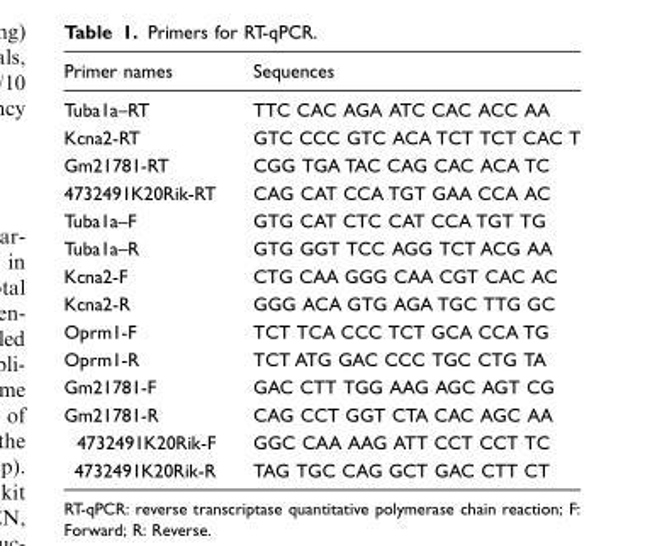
<table><thead><tr><td>Primer names</td><td>Sequences</td></tr></thead><tbody><tr><td>Tuba1a–RT</td><td>TTC CAC AGA ATC CAC ACC AA</td></tr><tr><td>Kcna2-RT</td><td>GTC CCC GTC ACA TCT TCT CAC T</td></tr><tr><td>Gm21781-RT</td><td>CGG TGA TAC CAG CAC ACA TC</td></tr><tr><td>4732491K20Rik-RT</td><td>CAG CAT CCA TGT GAA CCA AC</td></tr><tr><td>Tuba1a–F</td><td>GTG CAT CTC CAT CCA TGT TG</td></tr><tr><td>Tuba1a–R</td><td>GTG GGT TCC AGG TCT ACG AA</td></tr><tr><td>Kcna2-F</td><td>CTG CAA GGG CAA CGT CAC AC</td></tr><tr><td>Kcna2-R</td><td>GGG ACA GTG AGA TGC TTG GC</td></tr><tr><td>Oprm1-F</td><td>TCT TCA CCC TCT GCA CCA TG</td></tr><tr><td>Oprm1-R</td><td>TCT ATG GAC CCC TGC CTG TA</td></tr><tr><td>Gm21781-F</td><td>GAC CTT TGG AAG AGC AGT CG</td></tr><tr><td>Gm21781-R</td><td>CAG CCT GGT CTA CAC AGC AA</td></tr><tr><td>4732491K20Rik-F</td><td>GGC CAA AAG ATT CCT CCT TC</td></tr><tr><td>4732491K20Rik-R</td><td>TAG TGC CAG GCT GAC CTT CT</td></tr></tbody></table>